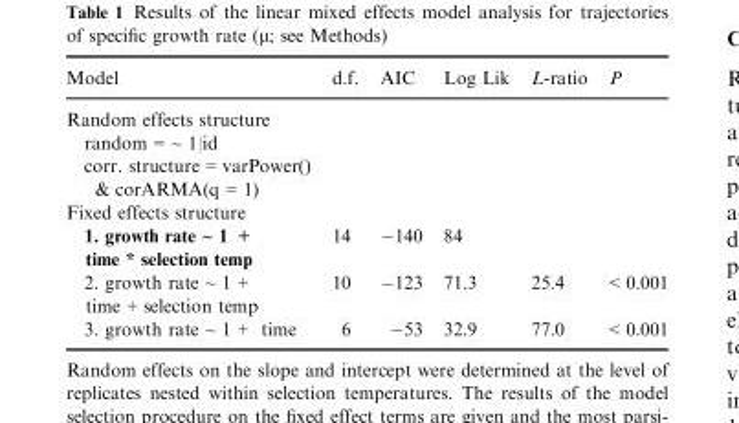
<table><thead><tr><td>Model</td><td>d.f.</td><td>AIC</td><td>Log Lik</td><td>L-ratio</td><td>P</td></tr></thead><tbody><tr><td colspan="6">Random effects structure</td></tr><tr><td colspan="6">random = ~ 1|id</td></tr><tr><td colspan="6">corr. structure = varPower() &amp; corARMA(q = 1)</td></tr><tr><td colspan="6">Fixed effects structure</td></tr><tr><td>1. growth rate ~ 1 + time * selection temp</td><td>14</td><td>−140</td><td>84</td><td></td><td></td></tr><tr><td>2. growth rate ~ 1 + time + selection temp</td><td>10</td><td>−123</td><td>71.3</td><td>25.4</td><td>&lt; 0.001</td></tr><tr><td>3. growth rate ~ 1 + time</td><td>6</td><td>−53</td><td>32.9</td><td>77.0</td><td>&lt; 0.001</td></tr></tbody></table>